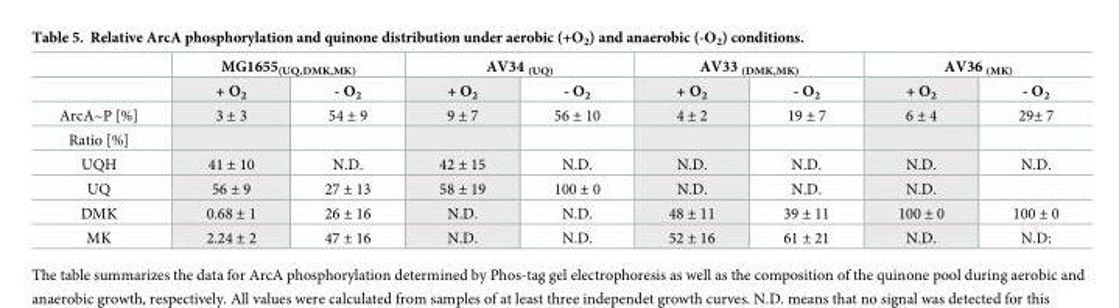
<table><thead><tr><td rowspan="2"></td><td colspan="2">MG1655<sub>(UQ,DMK,MK)</sub></td><td colspan="2">AV34 <sub>(UQ)</sub></td><td colspan="2">AV33 <sub>(DMK,MK)</sub></td><td colspan="2">AV36 <sub>(MK)</sub></td></tr><tr><td>+ O<sub>2</sub></td><td>- O<sub>2</sub></td><td>+ O<sub>2</sub></td><td>- O<sub>2</sub></td><td>+ O<sub>2</sub></td><td>- O<sub>2</sub></td><td>+ O<sub>2</sub></td><td>- O<sub>2</sub></td></tr></thead><tbody><tr><td>ArcA~P [%]</td><td>3 ± 3</td><td>54 ± 9</td><td>9 ± 7</td><td>56 ± 10</td><td>4 ± 2</td><td>19 ± 7</td><td>6 ± 4</td><td>29± 7</td></tr><tr><td colspan="9">Ratio [%]</td></tr><tr><td>UQH</td><td>41 ± 10</td><td>N.D.</td><td>42 ± 15</td><td>N.D.</td><td>N.D.</td><td>N.D.</td><td>N.D.</td><td>N.D.</td></tr><tr><td>UQ</td><td>56 ± 9</td><td>27 ± 13</td><td>58 ± 19</td><td>100 ± 0</td><td>N.D.</td><td>N.D.</td><td>N.D.</td><td></td></tr><tr><td>DMK</td><td>0.68 ± 1</td><td>26 ± 16</td><td>N.D.</td><td>N.D.</td><td>48 ± 11</td><td>39 ± 11</td><td>100 ± 0</td><td>100 ± 0</td></tr><tr><td>MK</td><td>2.24 ± 2</td><td>47 ± 16</td><td>N.D.</td><td>N.D.</td><td>52 ± 16</td><td>61 ± 21</td><td>N.D.</td><td>N.D:</td></tr></tbody></table>